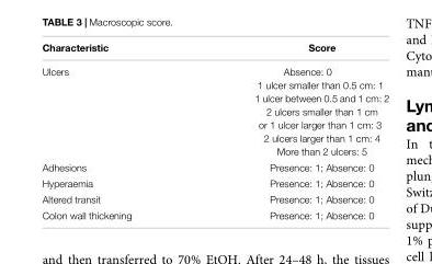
<table><thead><tr><td>Characteristic</td><td>Score</td></tr></thead><tbody><tr><td rowspan="6">Ulcers</td><td>Absence: 0</td></tr><tr><td>1 ulcer smaller than 0.5 cm: 1</td></tr><tr><td>1 ulcer between 0.5 and 1 cm: 2</td></tr><tr><td>2 ulcers smaller than 1 cm or 1 ulcer larger than 1 cm: 3</td></tr><tr><td>2 ulcers larger than 1 cm: 4</td></tr><tr><td>More than 2 ulcers: 5</td></tr><tr><td>Adhesions</td><td>Presence: 1; Absence: 0</td></tr><tr><td>Hyperaemia</td><td>Presence: 1; Absence: 0</td></tr><tr><td>Altered transit</td><td>Presence: 1; Absence: 0</td></tr><tr><td>Colon wall thickening</td><td>Presence: 1; Absence: 0</td></tr></tbody></table>